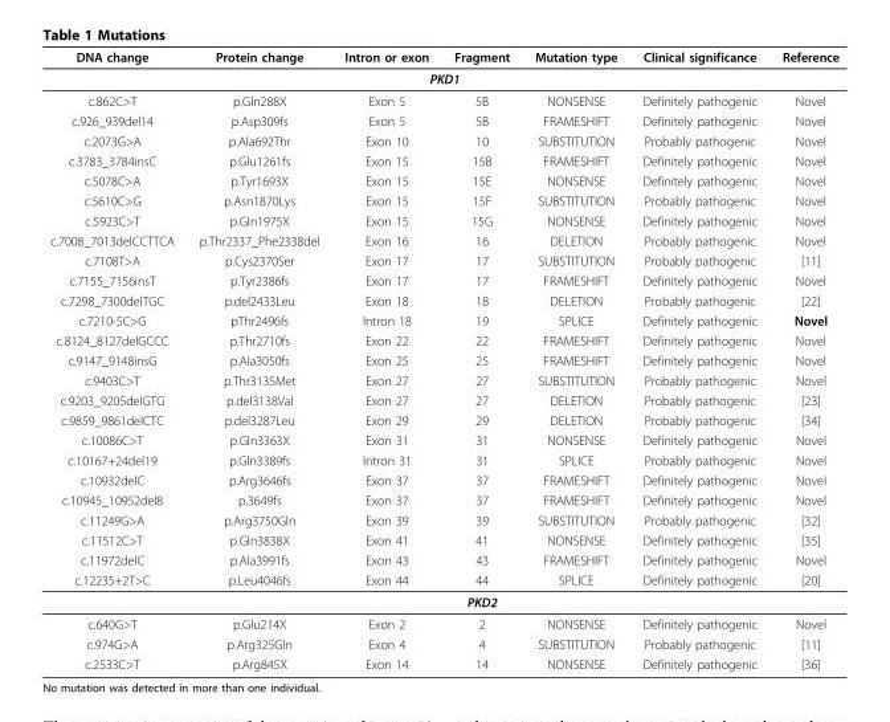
<table><thead><tr><td>DNA change</td><td>Protein change</td><td>Intron or exon</td><td>Fragment</td><td>Mutation type</td><td>Clinical significance</td><td>Reference</td></tr></thead><tbody><tr><td colspan="7">PKD1</td></tr><tr><td>c.862C&gt;T</td><td>p.Gln288X</td><td>Exon 5</td><td>5B</td><td>NONSENSE</td><td>Definitely pathogenic</td><td>Novel</td></tr><tr><td>c.926_939del14</td><td>p.Asp309fs</td><td>Exon 5</td><td>5B</td><td>FRAMESHIFT</td><td>Definitely pathogenic</td><td>Novel</td></tr><tr><td>c.2073G&gt;A</td><td>p.Ala692Thr</td><td>Exon 10</td><td>10</td><td>SUBSTITUTION</td><td>Probably pathogenic</td><td>Novel</td></tr><tr><td>c.3783_3784insC</td><td>p.Glu1261fs</td><td>Exon 15</td><td>15B</td><td>FRAMESHIFT</td><td>Definitely pathogenic</td><td>Novel</td></tr><tr><td>c.5078C&gt;A</td><td>p.Tyr1693X</td><td>Exon 15</td><td>15E</td><td>NONSENSE</td><td>Definitely pathogenic</td><td>Novel</td></tr><tr><td>c.5610C&gt;G</td><td>p.Asn1870Lys</td><td>Exon 15</td><td>15F</td><td>SUBSTITUTION</td><td>Probably pathogenic</td><td>Novel</td></tr><tr><td>c.5923C&gt;T</td><td>p.Gln1975X</td><td>Exon 15</td><td>15G</td><td>NONSENSE</td><td>Definitely pathogenic</td><td>Novel</td></tr><tr><td>c.7008_7013delCCTTCA</td><td>p.Thr2337_Phe2338del</td><td>Exon 16</td><td>16</td><td>DELETION</td><td>Probably pathogenic</td><td>Novel</td></tr><tr><td>c.7108T&gt;A</td><td>p.Cys2370Ser</td><td>Exon 17</td><td>17</td><td>SUBSTITUTION</td><td>Probably pathogenic</td><td>[11]</td></tr><tr><td>c.7155_7156insT</td><td>p.Tyr2386fs</td><td>Exon 17</td><td>17</td><td>FRAMESHIFT</td><td>Definitely pathogenic</td><td>Novel</td></tr><tr><td>c.7298_7300delTGC</td><td>p.del2433Leu</td><td>Exon 18</td><td>18</td><td>DELETION</td><td>Probably pathogenic</td><td>[22]</td></tr><tr><td>c.7210-5C&gt;G</td><td>pThr2496fs</td><td>Intron 18</td><td>19</td><td>SPLICE</td><td>Definitely pathogenic</td><td>Novel</td></tr><tr><td>c.8124_8127delGCCC</td><td>p.Thr2710fs</td><td>Exon 22</td><td>22</td><td>FRAMESHIFT</td><td>Definitely pathogenic</td><td>Novel</td></tr><tr><td>c.9147_9148insG</td><td>p.Ala3050fs</td><td>Exon 25</td><td>25</td><td>FRAMESHIFT</td><td>Definitely pathogenic</td><td>Novel</td></tr><tr><td>c.9403C&gt;T</td><td>p.Thr3135Met</td><td>Exon 27</td><td>27</td><td>SUBSTITUTION</td><td>Probably pathogenic</td><td>Novel</td></tr><tr><td>c.9203_9205delGTG</td><td>p.del3138Val</td><td>Exon 27</td><td>27</td><td>DELETION</td><td>Probably pathogenic</td><td>[23]</td></tr><tr><td>c.9859_9861delCTC</td><td>p.del3287Leu</td><td>Exon 29</td><td>29</td><td>DELETION</td><td>Probably pathogenic</td><td>[34]</td></tr><tr><td>c.10086C&gt;T</td><td>p.Gln3363X</td><td>Exon 31</td><td>31</td><td>NONSENSE</td><td>Definitely pathogenic</td><td>Novel</td></tr><tr><td>c.10167+24del19</td><td>p.Gln3389fs</td><td>Intron 31</td><td>31</td><td>SPLICE</td><td>Probably pathogenic</td><td>Novel</td></tr><tr><td>c.10932delC</td><td>p.Arg3646fs</td><td>Exon 37</td><td>37</td><td>FRAMESHIFT</td><td>Definitely pathogenic</td><td>Novel</td></tr><tr><td>c.10945_10952del8</td><td>p.3649fs</td><td>Exon 37</td><td>37</td><td>FRAMESHIFT</td><td>Definitely pathogenic</td><td>Novel</td></tr><tr><td>c.11249G&gt;A</td><td>p.Arg3750Gln</td><td>Exon 39</td><td>39</td><td>SUBSTITUTION</td><td>Probably pathogenic</td><td>[32]</td></tr><tr><td>c.11512C&gt;T</td><td>p.Gln3838X</td><td>Exon 41</td><td>41</td><td>NONSENSE</td><td>Definitely pathogenic</td><td>[35]</td></tr><tr><td>c.11972delC</td><td>p.Ala3991fs</td><td>Exon 43</td><td>43</td><td>FRAMESHIFT</td><td>Definitely pathogenic</td><td>Novel</td></tr><tr><td rowspan="2">c.12235+2T&gt;C</td><td>p.Leu4046fs</td><td>Exon 44</td><td>44</td><td>SPLICE</td><td>Definitely pathogenic</td><td>[20]</td></tr><tr><td></td><td></td><td>PKD2</td><td></td><td></td><td></td></tr><tr><td>c.640G&gt;T</td><td>p.Glu214X</td><td>Exon 2</td><td>2</td><td>NONSENSE</td><td>Definitely pathogenic</td><td>Novel</td></tr><tr><td>c.974G&gt;A</td><td>p.Arg325Gln</td><td>Exon 4</td><td>4</td><td>SUBSTITUTION</td><td>Probably pathogenic</td><td>[11]</td></tr><tr><td>c.2533C&gt;T</td><td>p.Arg845X</td><td>Exon 14</td><td>14</td><td>NONSENSE</td><td>Definitely pathogenic</td><td>[36]</td></tr></tbody></table>